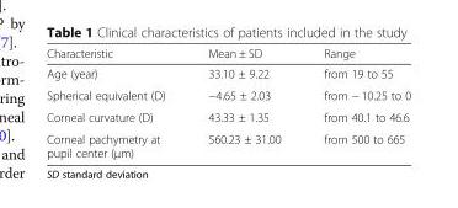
<table><thead><tr><td>Characteristic</td><td>Mean ± SD</td><td>Range</td></tr></thead><tbody><tr><td>Age (year)</td><td>33.10 ± 9.22</td><td>from 19 to 55</td></tr><tr><td>Spherical equivalent (D)</td><td>−4.65 ± 2.03</td><td>from − 10.25 to 0</td></tr><tr><td>Corneal curvature (D)</td><td>43.33 ± 1.35</td><td>from 40.1 to 46.6</td></tr><tr><td>Corneal pachymetry at pupil center (μm)</td><td>560.23 ± 31.00</td><td>from 500 to 665</td></tr></tbody></table>